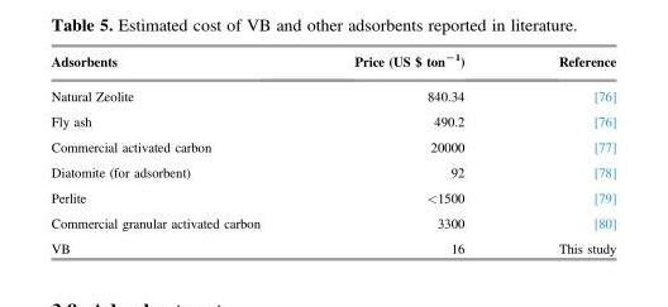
<table><thead><tr><td>Adsorbents</td><td>Price (US $ ton<sup>−1</sup>)</td><td>Reference</td></tr></thead><tbody><tr><td>Natural Zeolite</td><td>840.34</td><td>[76]</td></tr><tr><td>Fly ash</td><td>490.2</td><td>[76]</td></tr><tr><td>Commercial activated carbon</td><td>20000</td><td>[77]</td></tr><tr><td>Diatomite (for adsorbent)</td><td>92</td><td>[78]</td></tr><tr><td>Perlite</td><td>&lt;1500</td><td>[79]</td></tr><tr><td>Commercial granular activated carbon</td><td>3300</td><td>[80]</td></tr><tr><td>VB</td><td>16</td><td>This study</td></tr></tbody></table>